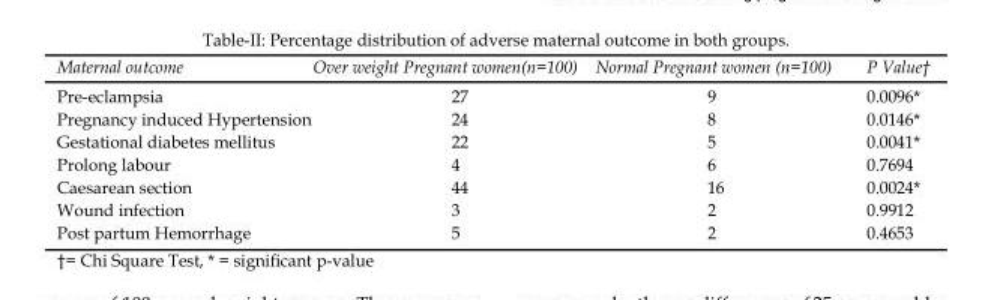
<table><thead><tr><td>Maternal outcome</td><td>Over weight Pregnant women(n=100)</td><td>Normal Pregnant women (n=100)</td><td>P Value†</td></tr></thead><tbody><tr><td>Pre-eclampsia</td><td>27</td><td>9</td><td>0.0096*</td></tr><tr><td>Pregnancy induced Hypertension</td><td>24</td><td>8</td><td>0.0146*</td></tr><tr><td>Gestational diabetes mellitus</td><td>22</td><td>5</td><td>0.0041*</td></tr><tr><td>Prolong labour</td><td>4</td><td>6</td><td>0.7694</td></tr><tr><td>Caesarean section</td><td>44</td><td>16</td><td>0.0024*</td></tr><tr><td>Wound infection</td><td>3</td><td>2</td><td>0.9912</td></tr><tr><td>Post partum Hemorrhage</td><td>5</td><td>2</td><td>0.4653</td></tr></tbody></table>